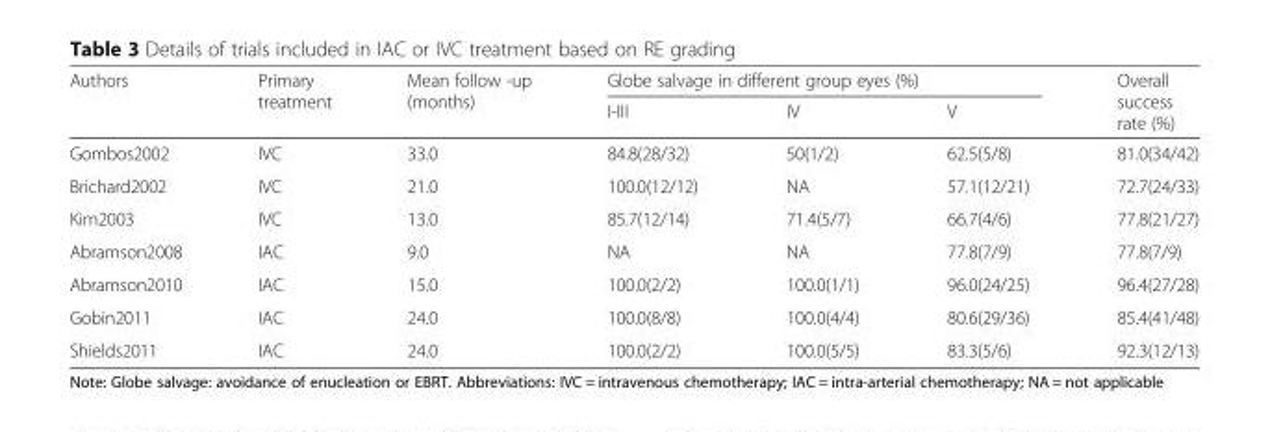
<table><thead><tr><td rowspan="2">Authors</td><td rowspan="2">Primary treatment</td><td rowspan="2">Mean follow -up (months)</td><td colspan="3">Globe salvage in different group eyes (%)</td><td rowspan="2">Overall success rate (%)</td></tr><tr><td>I-III</td><td>IV</td><td>V</td></tr></thead><tbody><tr><td>Gombos2002</td><td>IVC</td><td>33.0</td><td>84.8(28/32)</td><td>50(1/2)</td><td>62.5(5/8)</td><td>81.0(34/42)</td></tr><tr><td>Brichard2002</td><td>IVC</td><td>21.0</td><td>100.0(12/12)</td><td>NA</td><td>57.1(12/21)</td><td>72.7(24/33)</td></tr><tr><td>Kim2003</td><td>IVC</td><td>13.0</td><td>85.7(12/14)</td><td>71.4(5/7)</td><td>66.7(4/6)</td><td>77.8(21/27)</td></tr><tr><td>Abramson2008</td><td>IAC</td><td>9.0</td><td>NA</td><td>NA</td><td>77.8(7/9)</td><td>77.8(7/9)</td></tr><tr><td>Abramson2010</td><td>IAC</td><td>15.0</td><td>100.0(2/2)</td><td>100.0(1/1)</td><td>96.0(24/25)</td><td>96.4(27/28)</td></tr><tr><td>Gobin2011</td><td>IAC</td><td>24.0</td><td>100.0(8/8)</td><td>100.0(4/4)</td><td>80.6(29/36)</td><td>85.4(41/48)</td></tr><tr><td>Shields2011</td><td>IAC</td><td>24.0</td><td>100.0(2/2)</td><td>100.0(5/5)</td><td>83.3(5/6)</td><td>92.3(12/13)</td></tr></tbody></table>